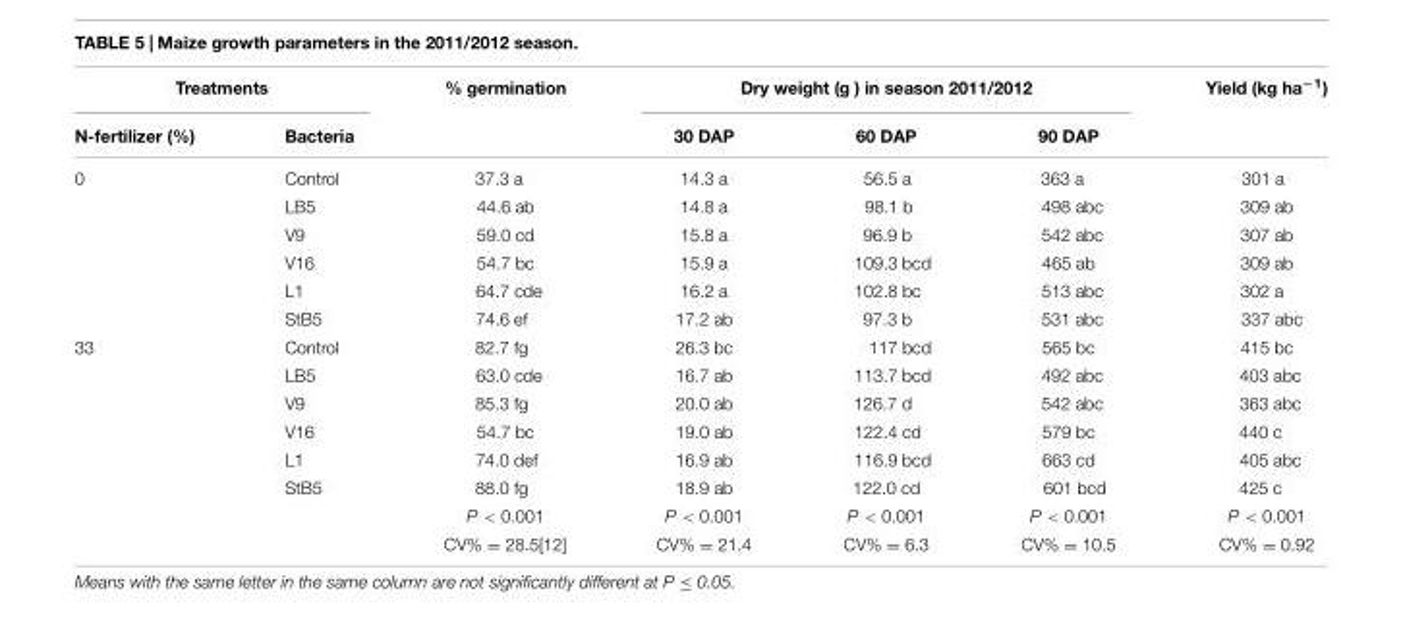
<table><thead><tr><td colspan="2">Treatments</td><td rowspan="2">% germination</td><td colspan="3">Dry weight (g ) in season 2011/2012</td><td rowspan="2">Yield (kg ha<sup>−1</sup>)</td></tr><tr><td>N-fertilizer (%)</td><td>Bacteria</td><td>30 DAP</td><td>60 DAP</td><td>90 DAP</td></tr></thead><tbody><tr><td rowspan="6">0</td><td>Control</td><td>37.3 a</td><td>14.3 a</td><td>56.5 a</td><td>363 a</td><td>301 a</td></tr><tr><td>LB5</td><td>44.6 ab</td><td>14.8 a</td><td>98.1 b</td><td>498 abc</td><td>309 ab</td></tr><tr><td>V9</td><td>59.0 cd</td><td>15.8 a</td><td>96.9 b</td><td>542 abc</td><td>307 ab</td></tr><tr><td>V16</td><td>54.7 bc</td><td>15.9 a</td><td>109.3 bcd</td><td>465 ab</td><td>309 ab</td></tr><tr><td>L1</td><td>64.7 cde</td><td>16.2 a</td><td>102.8 bc</td><td>513 abc</td><td>302 a</td></tr><tr><td>StB5</td><td>74.6 ef</td><td>17.2 ab</td><td>97.3 b</td><td>531 abc</td><td>337 abc</td></tr><tr><td rowspan="8">33</td><td>Control</td><td>82.7 fg</td><td>26.3 bc</td><td>117 bcd</td><td>565 bc</td><td>415 bc</td></tr><tr><td>LB5</td><td>63.0 cde</td><td>16.7 ab</td><td>113.7 bcd</td><td>492 abc</td><td>403 abc</td></tr><tr><td>V9</td><td>85.3 fg</td><td>20.0 ab</td><td>126.7 d</td><td>542 abc</td><td>363 abc</td></tr><tr><td>V16</td><td>54.7 bc</td><td>19.0 ab</td><td>122.4 cd</td><td>579 bc</td><td>440 c</td></tr><tr><td>L1</td><td>74.0 def</td><td>16.9 ab</td><td>116.9 bcd</td><td>663 cd</td><td>405 abc</td></tr><tr><td>StB5</td><td>88.0 fg</td><td>18.9 ab</td><td>122.0 cd</td><td>601 bcd</td><td>425 c</td></tr><tr><td></td><td>P &lt; 0.001</td><td>P &lt; 0.001</td><td>P &lt; 0.001</td><td>P &lt; 0.001</td><td>P &lt; 0.001</td></tr><tr><td></td><td>CV% = 28.5[12]</td><td>CV% = 21.4</td><td>CV% = 6.3</td><td>CV% = 10.5</td><td>CV% = 0.92</td></tr></tbody></table>